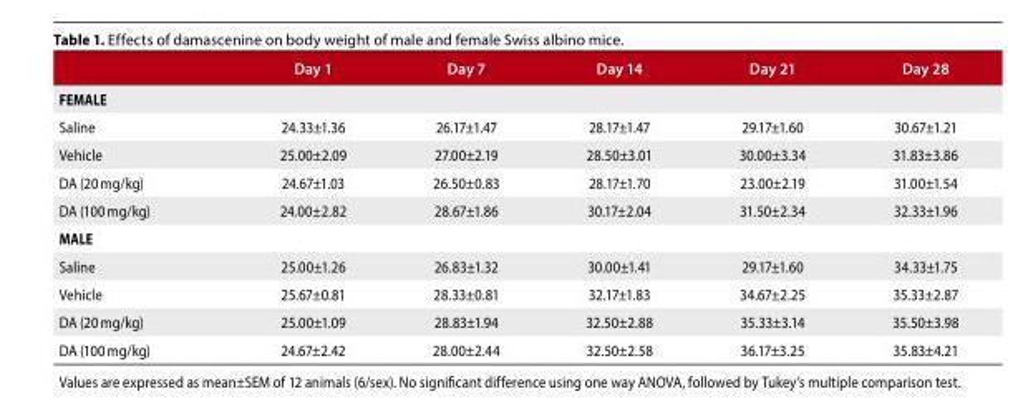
<table><thead><tr><td></td><td>Day 1</td><td>Day 7</td><td>Day 14</td><td>Day 21</td><td>Day 28</td></tr></thead><tbody><tr><td colspan="6">FEMALE</td></tr><tr><td>Saline</td><td>24.33±1.36</td><td>26.17±1.47</td><td>28.17±1.47</td><td>29.17±1.60</td><td>30.67±1.21</td></tr><tr><td>Vehicle</td><td>25.00±2.09</td><td>27.00±2.19</td><td>28.50±3.01</td><td>30.00±3.34</td><td>31.83±3.86</td></tr><tr><td>DA (20 mg/kg)</td><td>24.67±1.03</td><td>26.50±0.83</td><td>28.17±1.70</td><td>23.00±2.19</td><td>31.00±1.54</td></tr><tr><td>DA (100 mg/kg)</td><td>24.00±2.82</td><td>28.67±1.86</td><td>30.17±2.04</td><td>31.50±2.34</td><td>32.33±1.96</td></tr><tr><td colspan="6">MALE</td></tr><tr><td>Saline</td><td>25.00±1.26</td><td>26.83±1.32</td><td>30.00±1.41</td><td>29.17±1.60</td><td>34.33±1.75</td></tr><tr><td>Vehicle</td><td>25.67±0.81</td><td>28.33±0.81</td><td>32.17±1.83</td><td>34.67±2.25</td><td>35.33±2.87</td></tr><tr><td>DA (20 mg/kg)</td><td>25.00±1.09</td><td>28.83±1.94</td><td>32.50±2.88</td><td>35.33±3.14</td><td>35.50±3.98</td></tr><tr><td>DA (100 mg/kg)</td><td>24.67±2.42</td><td>28.00±2.44</td><td>32.50±2.58</td><td>36.17±3.25</td><td>35.83±4.21</td></tr></tbody></table>